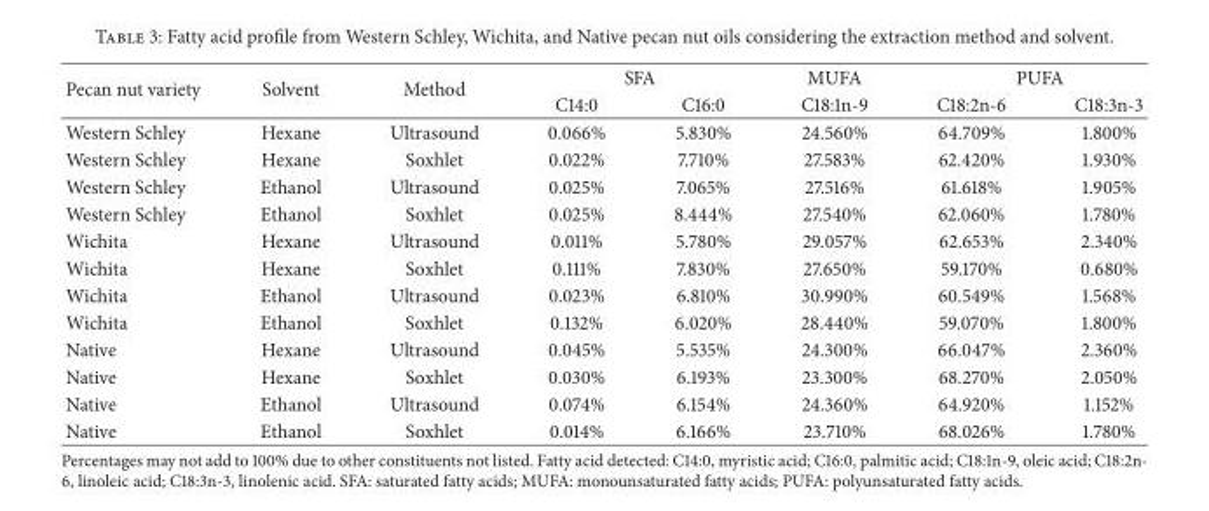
<table><thead><tr><td rowspan="2">Pecan nut variety</td><td rowspan="2">Solvent</td><td rowspan="2">Method</td><td colspan="2">SFA</td><td rowspan="2">MUFA C18:1n-9</td><td colspan="2">PUFA</td></tr><tr><td>C14:0</td><td>C16:0</td><td>C18:2n-6</td><td>C18:3n-3</td></tr></thead><tbody><tr><td>Western Schley</td><td>Hexane</td><td>Ultrasound</td><td>0.066%</td><td>5.830%</td><td>24.560%</td><td>64.709%</td><td>1.800%</td></tr><tr><td>Western Schley</td><td>Hexane</td><td>Soxhlet</td><td>0.022%</td><td>7.710%</td><td>27.583%</td><td>62.420%</td><td>1.930%</td></tr><tr><td>Western Schley</td><td>Ethanol</td><td>Ultrasound</td><td>0.025%</td><td>7.065%</td><td>27.516%</td><td>61.618%</td><td>1.905%</td></tr><tr><td>Western Schley</td><td>Ethanol</td><td>Soxhlet</td><td>0.025%</td><td>8.444%</td><td>27.540%</td><td>62.060%</td><td>1.780%</td></tr><tr><td>Wichita</td><td>Hexane</td><td>Ultrasound</td><td>0.011%</td><td>5.780%</td><td>29.057%</td><td>62.653%</td><td>2.340%</td></tr><tr><td>Wichita</td><td>Hexane</td><td>Soxhlet</td><td>0.111%</td><td>7.830%</td><td>27.650%</td><td>59.170%</td><td>0.680%</td></tr><tr><td>Wichita</td><td>Ethanol</td><td>Ultrasound</td><td>0.023%</td><td>6.810%</td><td>30.990%</td><td>60.549%</td><td>1.568%</td></tr><tr><td>Wichita</td><td>Ethanol</td><td>Soxhlet</td><td>0.132%</td><td>6.020%</td><td>28.440%</td><td>59.070%</td><td>1.800%</td></tr><tr><td>Native</td><td>Hexane</td><td>Ultrasound</td><td>0.045%</td><td>5.535%</td><td>24.300%</td><td>66.047%</td><td>2.360%</td></tr><tr><td>Native</td><td>Hexane</td><td>Soxhlet</td><td>0.030%</td><td>6.193%</td><td>23.300%</td><td>68.270%</td><td>2.050%</td></tr><tr><td>Native</td><td>Ethanol</td><td>Ultrasound</td><td>0.074%</td><td>6.154%</td><td>24.360%</td><td>64.920%</td><td>1.152%</td></tr><tr><td>Native</td><td>Ethanol</td><td>Soxhlet</td><td>0.014%</td><td>6.166%</td><td>23.710%</td><td>68.026%</td><td>1.780%</td></tr></tbody></table>